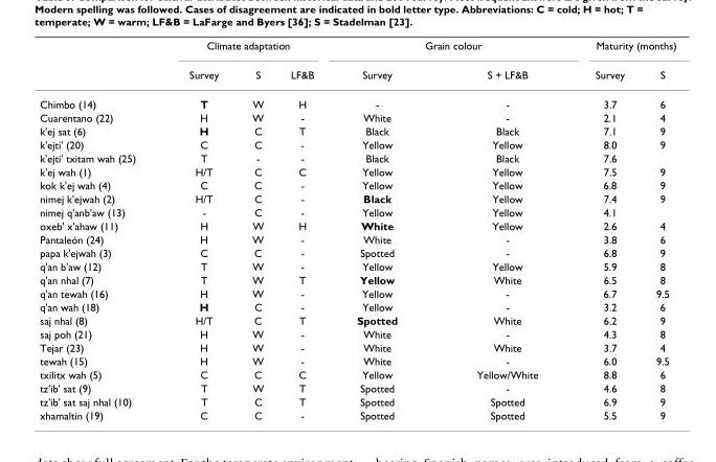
<table><thead><tr><td rowspan="2"></td><td colspan="3">Climate adaptation</td><td colspan="2">Grain colour</td><td colspan="2">Maturity (months)</td></tr><tr><td>Survey</td><td>S</td><td>LF&amp;B</td><td>Survey</td><td>S + LF&amp;B</td><td>Survey</td><td>S</td></tr></thead><tbody><tr><td>Chimbo (14)</td><td>T</td><td>W</td><td>H</td><td>-</td><td>-</td><td>3.7</td><td>6</td></tr><tr><td>Cuarentano (22)</td><td>H</td><td>W</td><td>-</td><td>White</td><td>-</td><td>2.1</td><td>4</td></tr><tr><td>k&#x27;ej sat (6)</td><td>H</td><td>C</td><td>T</td><td>Black</td><td>Black</td><td>7.1</td><td>9</td></tr><tr><td>k&#x27;ejti&#x27; (20)</td><td>C</td><td>C</td><td>-</td><td>Yellow</td><td>Yellow</td><td>8.0</td><td>9</td></tr><tr><td>k&#x27;ejti&#x27; txitam wah (25)</td><td>T</td><td>-</td><td>-</td><td>Black</td><td>Black</td><td>7.6</td><td></td></tr><tr><td>k&#x27;ej wah (1)</td><td>H/T</td><td>C</td><td>C</td><td>Yellow</td><td>Yellow</td><td>7.5</td><td>9</td></tr><tr><td>kok k&#x27;ej wah (4)</td><td>C</td><td>C</td><td>-</td><td>Yellow</td><td>Yellow</td><td>6.8</td><td>9</td></tr><tr><td>nimej k&#x27;ejwah (2)</td><td>H/T</td><td>C</td><td>-</td><td>Black</td><td>Yellow</td><td>7.4</td><td>9</td></tr><tr><td>nimej q&#x27;anb&#x27;aw (13)</td><td>-</td><td>C</td><td>-</td><td>Yellow</td><td>Yellow</td><td>4.1</td><td></td></tr><tr><td>oxeb&#x27; x&#x27;ahaw (11)</td><td>H</td><td>W</td><td>H</td><td>White</td><td>Yellow</td><td>2.6</td><td>4</td></tr><tr><td>Pantaleón (24)</td><td>H</td><td>W</td><td>-</td><td>White</td><td>-</td><td>3.8</td><td>6</td></tr><tr><td>papa k&#x27;ejwah (3)</td><td>C</td><td>C</td><td>-</td><td>Spotted</td><td>-</td><td>6.8</td><td>9</td></tr><tr><td>q&#x27;an b&#x27;aw (12)</td><td>T</td><td>W</td><td>-</td><td>Yellow</td><td>Yellow</td><td>5.9</td><td>8</td></tr><tr><td>q&#x27;an nhal (7)</td><td>T</td><td>W</td><td>T</td><td>Yellow</td><td>White</td><td>6.5</td><td>8</td></tr><tr><td>q&#x27;an tewah (16)</td><td>H</td><td>W</td><td>-</td><td>Yellow</td><td>-</td><td>6.7</td><td>9.5</td></tr><tr><td>q&#x27;an wah (18)</td><td>H</td><td>C</td><td>-</td><td>Yellow</td><td>-</td><td>3.2</td><td>6</td></tr><tr><td>saj nhal (8)</td><td>H/T</td><td>C</td><td>T</td><td>Spotted</td><td>White</td><td>6.2</td><td>9</td></tr><tr><td>saj poh (21)</td><td>H</td><td>W</td><td>-</td><td>White</td><td>-</td><td>4.3</td><td>8</td></tr><tr><td>Tejar (23)</td><td>H</td><td>W</td><td>-</td><td>White</td><td>White</td><td>3.7</td><td>4</td></tr><tr><td>tewah (15)</td><td>H</td><td>W</td><td>-</td><td>White</td><td>-</td><td>6.0</td><td>9.5</td></tr><tr><td>txilitx wah (5)</td><td>C</td><td>C</td><td>C</td><td>Yellow</td><td>Yellow/White</td><td>8.8</td><td>6</td></tr><tr><td>tz&#x27;ib&#x27; sat (9)</td><td>T</td><td>W</td><td>T</td><td>Spotted</td><td>-</td><td>4.6</td><td>8</td></tr><tr><td>tz&#x27;ib&#x27; sat saj nhal (10)</td><td>T</td><td>C</td><td>T</td><td>Spotted</td><td>Spotted</td><td>6.9</td><td>9</td></tr><tr><td>xhamaltin (19)</td><td>C</td><td>C</td><td>-</td><td>Spotted</td><td>Spotted</td><td>5.5</td><td>9</td></tr></tbody></table>